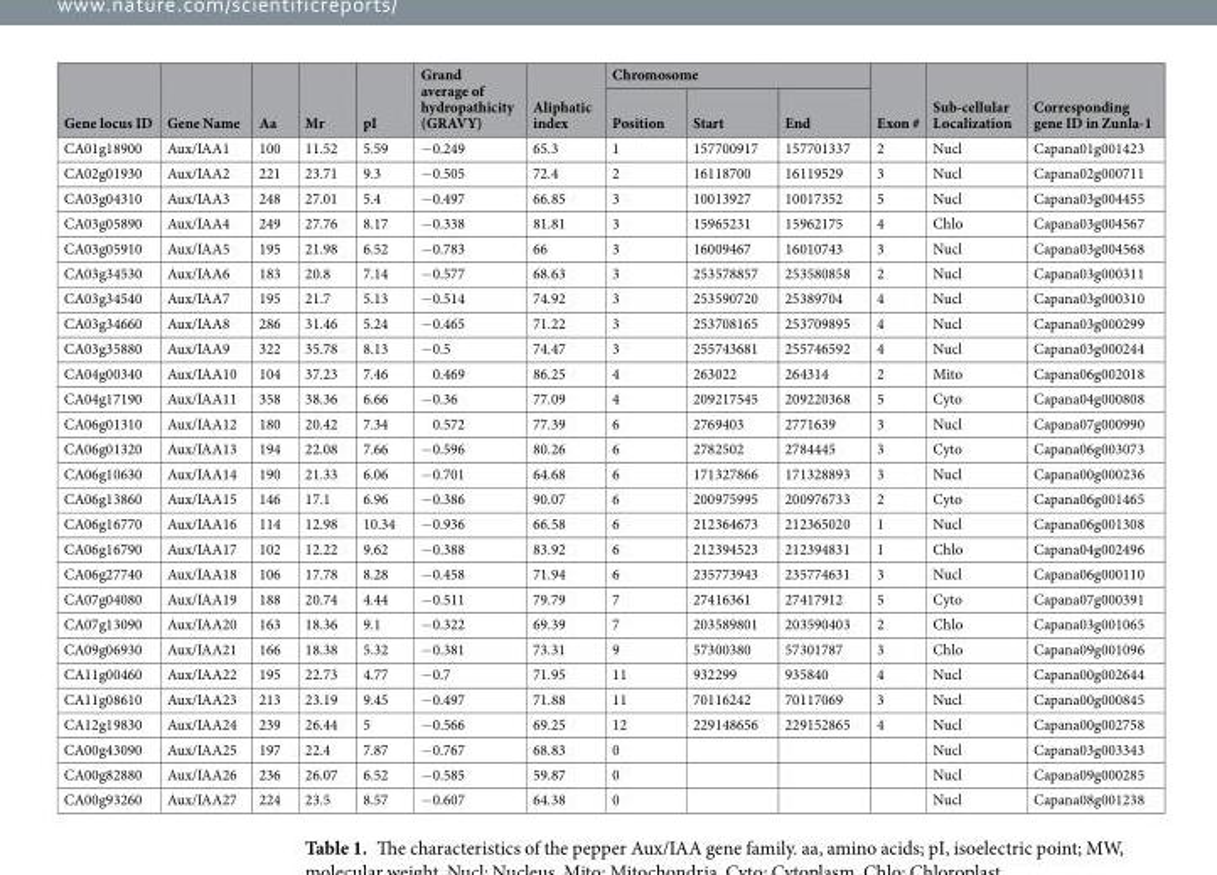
<table><thead><tr><td rowspan="2">Gene locus ID</td><td rowspan="2">Gene Name</td><td rowspan="2">Aa</td><td rowspan="2">Mr</td><td rowspan="2">pI</td><td rowspan="2">Grand average of hydropathicity (GRAVY)</td><td rowspan="2">Aliphatic index</td><td colspan="3">Chromosome</td><td rowspan="2">Exon #</td><td rowspan="2">Sub-cellular Localization</td><td rowspan="2">Corresponding gene ID in Zunla-1</td></tr><tr><td>Position</td><td>Start</td><td>End</td></tr></thead><tbody><tr><td>CA01g18900</td><td>Aux/IAA1</td><td>100</td><td>11.52</td><td>5.59</td><td>−0.249</td><td>65.3</td><td>1</td><td>157700917</td><td>157701337</td><td>2</td><td>Nucl</td><td>Capana01g001423</td></tr><tr><td>CA02g01930</td><td>Aux/IAA2</td><td>221</td><td>23.71</td><td>9.3</td><td>−0.505</td><td>72.4</td><td>2</td><td>16118700</td><td>16119529</td><td>3</td><td>Nucl</td><td>Capana02g000711</td></tr><tr><td>CA03g04310</td><td>Aux/IAA3</td><td>248</td><td>27.01</td><td>5.4</td><td>−0.497</td><td>66.85</td><td>3</td><td>10013927</td><td>10017352</td><td>5</td><td>Nucl</td><td>Capana03g004455</td></tr><tr><td>CA03g05890</td><td>Aux/IAA4</td><td>249</td><td>27.76</td><td>8.17</td><td>−0.338</td><td>81.81</td><td>3</td><td>15965231</td><td>15962175</td><td>4</td><td>Chlo</td><td>Capana03g004567</td></tr><tr><td>CA03g05910</td><td>Aux/IAA5</td><td>195</td><td>21.98</td><td>6.52</td><td>−0.783</td><td>66</td><td>3</td><td>16009467</td><td>16010743</td><td>3</td><td>Nucl</td><td>Capana03g004568</td></tr><tr><td>CA03g34530</td><td>Aux/IAA6</td><td>183</td><td>20.8</td><td>7.14</td><td>−0.577</td><td>68.63</td><td>3</td><td>253578857</td><td>253580858</td><td>2</td><td>Nucl</td><td>Capana03g000311</td></tr><tr><td>CA03g34540</td><td>Aux/IAA7</td><td>195</td><td>21.7</td><td>5.13</td><td>−0.514</td><td>74.92</td><td>3</td><td>253590720</td><td>25389704</td><td>4</td><td>Nucl</td><td>Capana03g000310</td></tr><tr><td>CA03g34660</td><td>Aux/IAA8</td><td>286</td><td>31.46</td><td>5.24</td><td>−0.465</td><td>71.22</td><td>3</td><td>253708165</td><td>253709895</td><td>4</td><td>Nucl</td><td>Capana03g000299</td></tr><tr><td>CA03g35880</td><td>Aux/IAA9</td><td>322</td><td>35.78</td><td>8.13</td><td>−0.5</td><td>74.47</td><td>3</td><td>255743681</td><td>255746592</td><td>4</td><td>Nucl</td><td>Capana03g000244</td></tr><tr><td>CA04g00340</td><td>Aux/IAA10</td><td>104</td><td>37.23</td><td>7.46</td><td>0.469</td><td>86.25</td><td>4</td><td>263022</td><td>264314</td><td>2</td><td>Mito</td><td>Capana06g002018</td></tr><tr><td>CA04g17190</td><td>Aux/IAA11</td><td>358</td><td>38.36</td><td>6.66</td><td>−0.36</td><td>77.09</td><td>4</td><td>209217545</td><td>209220368</td><td>5</td><td>Cyto</td><td>Capana04g000808</td></tr><tr><td>CA06g01310</td><td>Aux/IAA12</td><td>180</td><td>20.42</td><td>7.34</td><td>0.572</td><td>77.39</td><td>6</td><td>2769403</td><td>2771639</td><td>3</td><td>Nucl</td><td>Capana07g000990</td></tr><tr><td>CA06g01320</td><td>Aux/IAA13</td><td>194</td><td>22.08</td><td>7.66</td><td>−0.596</td><td>80.26</td><td>6</td><td>2782502</td><td>2784445</td><td>3</td><td>Cyto</td><td>Capana06g003073</td></tr><tr><td>CA06g10630</td><td>Aux/IAA14</td><td>190</td><td>21.33</td><td>6.06</td><td>−0.701</td><td>64.68</td><td>6</td><td>171327866</td><td>171328893</td><td>3</td><td>Nucl</td><td>Capana00g000236</td></tr><tr><td>CA06g13860</td><td>Aux/IAA15</td><td>146</td><td>17.1</td><td>6.96</td><td>−0.386</td><td>90.07</td><td>6</td><td>200975995</td><td>200976733</td><td>2</td><td>Cyto</td><td>Capana06g001465</td></tr><tr><td>CA06g16770</td><td>Aux/IAA16</td><td>114</td><td>12.98</td><td>10.34</td><td>−0.936</td><td>66.58</td><td>6</td><td>212364673</td><td>212365020</td><td>1</td><td>Nucl</td><td>Capana06g001308</td></tr><tr><td>CA06g16790</td><td>Aux/IAA17</td><td>102</td><td>12.22</td><td>9.62</td><td>−0.388</td><td>83.92</td><td>6</td><td>212394523</td><td>212394831</td><td>1</td><td>Chlo</td><td>Capana04g002496</td></tr><tr><td>CA06g27740</td><td>Aux/IAA18</td><td>106</td><td>17.78</td><td>8.28</td><td>−0.458</td><td>71.94</td><td>6</td><td>235773943</td><td>235774631</td><td>3</td><td>Nucl</td><td>Capana06g000110</td></tr><tr><td>CA07g04080</td><td>Aux/IAA19</td><td>188</td><td>20.74</td><td>4.44</td><td>−0.511</td><td>79.79</td><td>7</td><td>27416361</td><td>27417912</td><td>5</td><td>Cyto</td><td>Capana07g000391</td></tr><tr><td>CA07g13090</td><td>Aux/IAA20</td><td>163</td><td>18.36</td><td>9.1</td><td>−0.322</td><td>69.39</td><td>7</td><td>203589801</td><td>203590403</td><td>2</td><td>Chlo</td><td>Capana03g001065</td></tr><tr><td>CA09g06930</td><td>Aux/IAA21</td><td>166</td><td>18.38</td><td>5.32</td><td>−0.381</td><td>73.31</td><td>9</td><td>57300380</td><td>57301787</td><td>3</td><td>Chlo</td><td>Capana09g001096</td></tr><tr><td>CA11g00460</td><td>Aux/IAA22</td><td>195</td><td>22.73</td><td>4.77</td><td>−0.7</td><td>71.95</td><td>11</td><td>932299</td><td>935840</td><td>4</td><td>Nucl</td><td>Capana00g002644</td></tr><tr><td>CA11g08610</td><td>Aux/IAA23</td><td>213</td><td>23.19</td><td>9.45</td><td>−0.497</td><td>71.88</td><td>11</td><td>70116242</td><td>70117069</td><td>3</td><td>Nucl</td><td>Capana00g000845</td></tr><tr><td>CA12g19830</td><td>Aux/IAA24</td><td>239</td><td>26.44</td><td>5</td><td>−0.566</td><td>69.25</td><td>12</td><td>229148656</td><td>229152865</td><td>4</td><td>Nucl</td><td>Capana00g002758</td></tr><tr><td>CA00g43090</td><td>Aux/IAA25</td><td>197</td><td>22.4</td><td>7.87</td><td>−0.767</td><td>68.83</td><td>0</td><td></td><td></td><td></td><td>Nucl</td><td>Capana03g003343</td></tr><tr><td>CA00g82880</td><td>Aux/IAA26</td><td>236</td><td>26.07</td><td>6.52</td><td>−0.585</td><td>59.87</td><td>0</td><td></td><td></td><td></td><td>Nucl</td><td>Capana09g000285</td></tr><tr><td>CA00g93260</td><td>Aux/IAA27</td><td>224</td><td>23.5</td><td>8.57</td><td>−0.607</td><td>64.38</td><td>0</td><td></td><td></td><td></td><td>Nucl</td><td>Capana08g001238</td></tr></tbody></table>